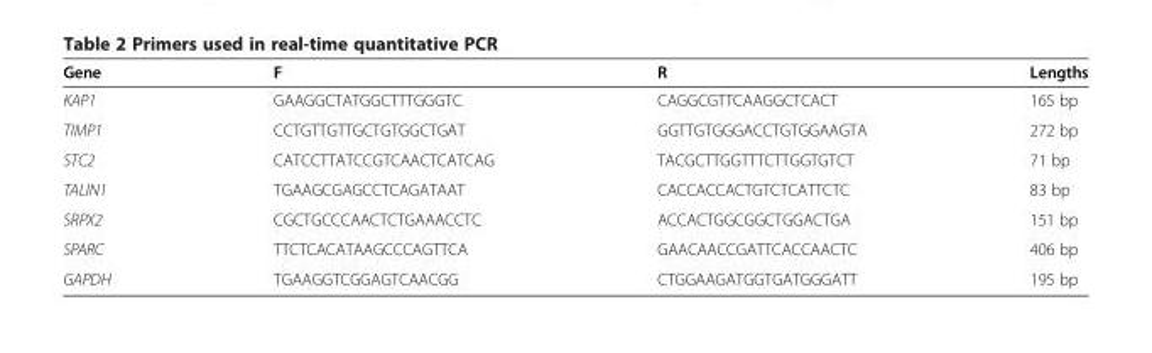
<table><thead><tr><td>Gene</td><td>F</td><td>R</td><td>Lengths</td></tr></thead><tbody><tr><td>KAP1</td><td>GAAGGCTATGGCTTTGGGTC</td><td>CAGGCGTTCAAGGCTCACT</td><td>165 bp</td></tr><tr><td>TIMP1</td><td>CCTGTTGTTGCTGTGGCTGAT</td><td>GGTTGTGGGACCTGTGGAAGTA</td><td>272 bp</td></tr><tr><td>STC2</td><td>CATCCTTATCCGTCAACTCATCAG</td><td>TACGCTTGGTTTCTTGGTGTCT</td><td>71 bp</td></tr><tr><td>TALIN1</td><td>TGAAGCGAGCCTCAGATAAT</td><td>CACCACCACTGTCTCATTCTC</td><td>83 bp</td></tr><tr><td>SRPX2</td><td>CGCTGCCCAACTCTGAAACCTC</td><td>ACCACTGGCGGCTGGACTGA</td><td>151 bp</td></tr><tr><td>SPARC</td><td>TTCTCACATAAGCCCAGTTCA</td><td>GAACAACCGATTCACCAACTC</td><td>406 bp</td></tr><tr><td>GAPDH</td><td>TGAAGGTCGGAGTCAACGG</td><td>CTGGAAGATGGTGATGGGATT</td><td>195 bp</td></tr></tbody></table>